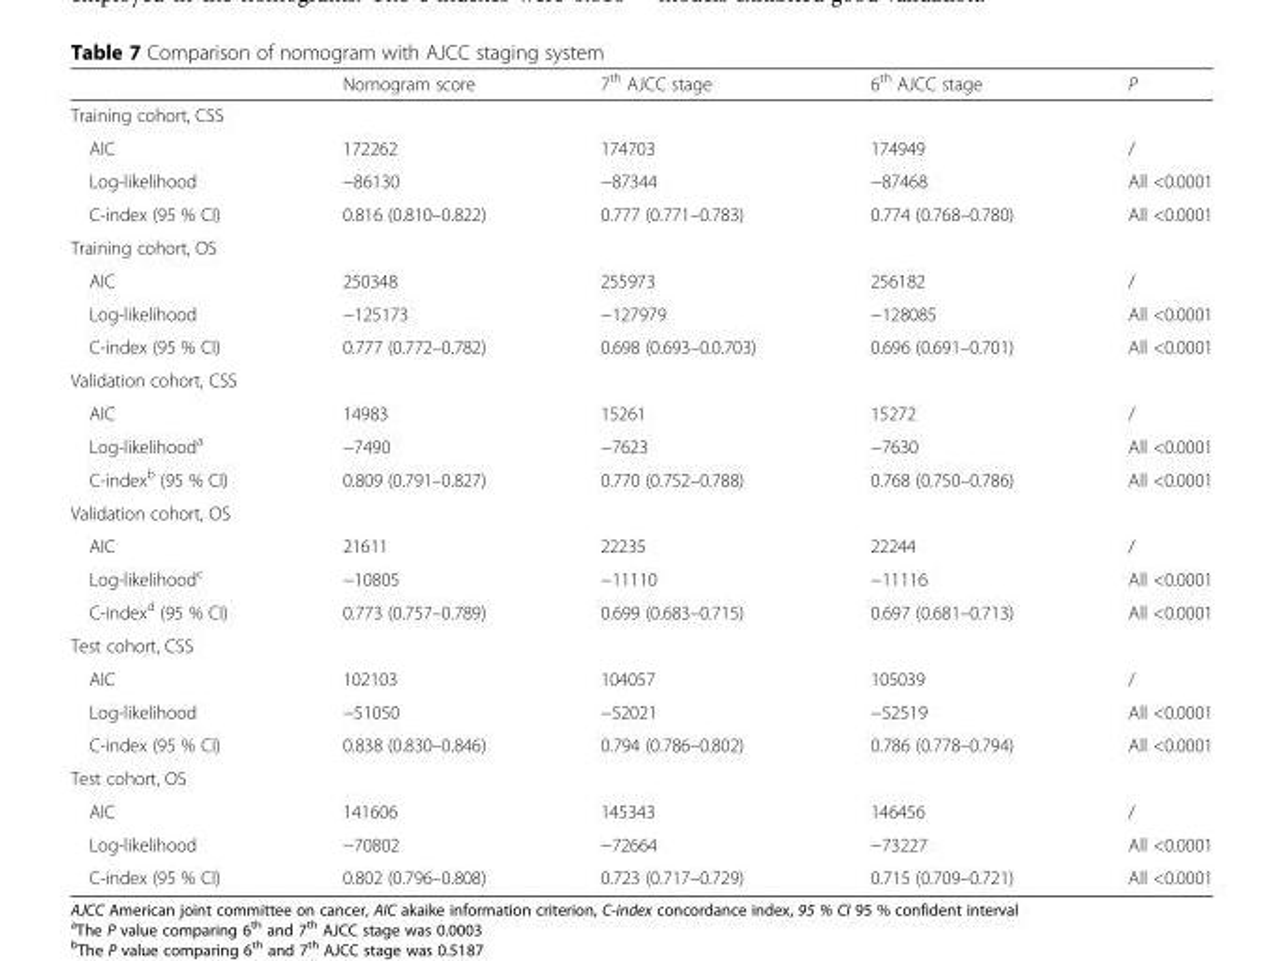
<table><thead><tr><td></td><td>Nomogram score</td><td>7<sup>th</sup> AJCC stage</td><td>6<sup>th</sup> AJCC stage</td><td>P</td></tr></thead><tbody><tr><td colspan="5">Training cohort, CSS</td></tr><tr><td>AIC</td><td>172262</td><td>174703</td><td>174949</td><td>/</td></tr><tr><td>Log-likelihood</td><td>−86130</td><td>−87344</td><td>−87468</td><td>All &lt;0.0001</td></tr><tr><td>C-index (95 % CI)</td><td>0.816 (0.810–0.822)</td><td>0.777 (0.771–0.783)</td><td>0.774 (0.768–0.780)</td><td>All &lt;0.0001</td></tr><tr><td colspan="5">Training cohort, OS</td></tr><tr><td>AIC</td><td>250348</td><td>255973</td><td>256182</td><td>/</td></tr><tr><td>Log-likelihood</td><td>−125173</td><td>−127979</td><td>−128085</td><td>All &lt;0.0001</td></tr><tr><td>C-index (95 % CI)</td><td>0.777 (0.772–0.782)</td><td>0.698 (0.693–0.0.703)</td><td>0.696 (0.691–0.701)</td><td>All &lt;0.0001</td></tr><tr><td colspan="5">Validation cohort, CSS</td></tr><tr><td>AIC</td><td>14983</td><td>15261</td><td>15272</td><td>/</td></tr><tr><td>Log-likelihood<sup>a</sup></td><td>−7490</td><td>−7623</td><td>−7630</td><td>All &lt;0.0001</td></tr><tr><td>C-index<sup>b</sup> (95 % CI)</td><td>0.809 (0.791–0.827)</td><td>0.770 (0.752–0.788)</td><td>0.768 (0.750–0.786)</td><td>All &lt;0.0001</td></tr><tr><td colspan="5">Validation cohort, OS</td></tr><tr><td>AIC</td><td>21611</td><td>22235</td><td>22244</td><td>/</td></tr><tr><td>Log-likelihood<sup>c</sup></td><td>−10805</td><td>−11110</td><td>−11116</td><td>All &lt;0.0001</td></tr><tr><td>C-index<sup>d</sup> (95 % CI)</td><td>0.773 (0.757–0.789)</td><td>0.699 (0.683–0.715)</td><td>0.697 (0.681–0.713)</td><td>All &lt;0.0001</td></tr><tr><td colspan="5">Test cohort, CSS</td></tr><tr><td>AIC</td><td>102103</td><td>104057</td><td>105039</td><td>/</td></tr><tr><td>Log-likelihood</td><td>−51050</td><td>−52021</td><td>−52519</td><td>All &lt;0.0001</td></tr><tr><td>C-index (95 % CI)</td><td>0.838 (0.830–0.846)</td><td>0.794 (0.786–0.802)</td><td>0.786 (0.778–0.794)</td><td>All &lt;0.0001</td></tr><tr><td colspan="5">Test cohort, OS</td></tr><tr><td>AIC</td><td>141606</td><td>145343</td><td>146456</td><td>/</td></tr><tr><td>Log-likelihood</td><td>−70802</td><td>−72664</td><td>−73227</td><td>All &lt;0.0001</td></tr><tr><td>C-index (95 % CI)</td><td>0.802 (0.796–0.808)</td><td>0.723 (0.717–0.729)</td><td>0.715 (0.709–0.721)</td><td>All &lt;0.0001</td></tr></tbody></table>